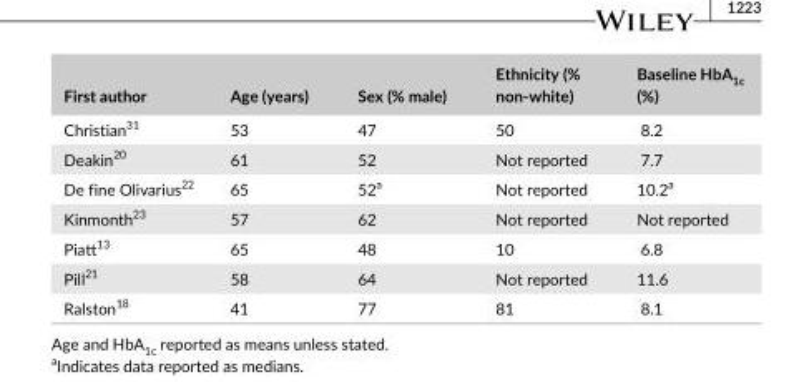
<table><thead><tr><td>First author</td><td>Age (years)</td><td>Sex (% male)</td><td>Ethnicity (% non- white)</td><td>Baseline HbA<sub>1c</sub> (%)</td></tr></thead><tbody><tr><td>Christian<sup>31</sup></td><td>53</td><td>47</td><td>50</td><td>8.2</td></tr><tr><td>Deakin<sup>20</sup></td><td>61</td><td>52</td><td>Not reported</td><td>7.7</td></tr><tr><td>De fine Olivarius<sup>22</sup></td><td>65</td><td>52<sup>a</sup></td><td>Not reported</td><td>10.2<sup>a</sup></td></tr><tr><td>Kinmonth<sup>23</sup></td><td>57</td><td>62</td><td>Not reported</td><td>Not reported</td></tr><tr><td>Piatt<sup>13</sup></td><td>65</td><td>48</td><td>10</td><td>6.8</td></tr><tr><td>Pill<sup>21</sup></td><td>58</td><td>64</td><td>Not reported</td><td>11.6</td></tr><tr><td>Ralston<sup>18</sup></td><td>41</td><td>77</td><td>81</td><td>8.1</td></tr></tbody></table>